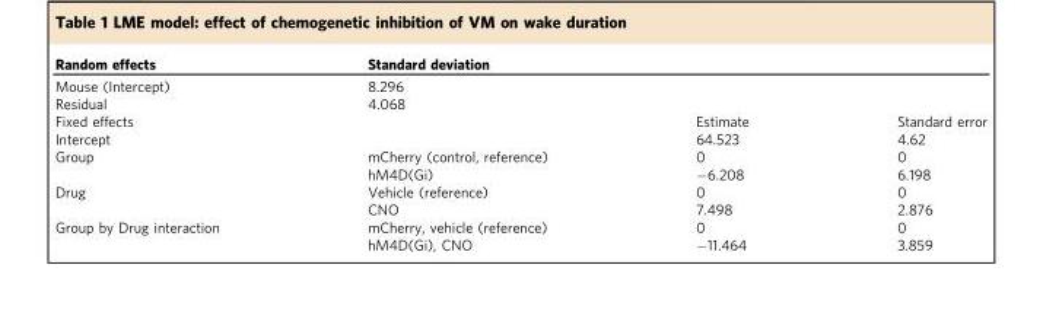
<table><thead><tr><td>Random effects</td><td>Standard deviation</td><td></td><td></td></tr></thead><tbody><tr><td>Mouse (Intercept)</td><td>8.296</td><td></td><td></td></tr><tr><td>Residual</td><td>4.068</td><td></td><td></td></tr><tr><td>Fixed effects</td><td></td><td>Estimate</td><td>Standard error</td></tr><tr><td>Intercept</td><td></td><td>64.523</td><td>4.62</td></tr><tr><td rowspan="2">Group</td><td>mCherry (control, reference)</td><td>0</td><td>0</td></tr><tr><td>hM4D(Gi)</td><td>−6.208</td><td>6.198</td></tr><tr><td rowspan="2">Drug</td><td>Vehicle (reference)</td><td>0</td><td>0</td></tr><tr><td>CNO</td><td>7.498</td><td>2.876</td></tr><tr><td rowspan="2">Group by Drug interaction</td><td>mCherry, vehicle (reference)</td><td>0</td><td>0</td></tr><tr><td>hM4D(Gi), CNO</td><td>−11.464</td><td>3.859</td></tr></tbody></table>